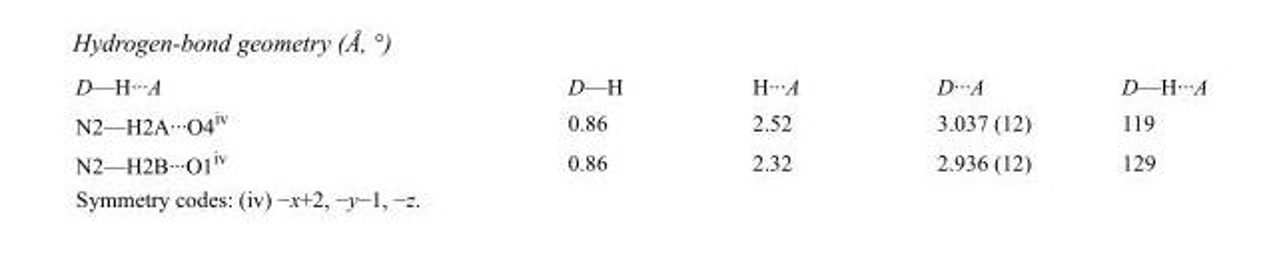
<table><tbody><tr><td>D—H···A</td><td>D—H</td><td>H···A</td><td>D···A</td><td>D—H···A</td></tr><tr><td>N2—H2A···O4<sup>iv</sup></td><td>0.86</td><td>2.52</td><td>3.037 (12)</td><td>119</td></tr><tr><td>N2—H2B···O1<sup>iv</sup></td><td>0.86</td><td>2.32</td><td>2.936 (12)</td><td>129</td></tr></tbody></table>